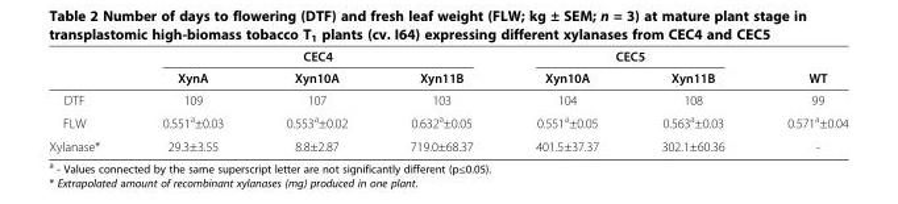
<table><thead><tr><td rowspan="2"></td><td colspan="3">CEC4</td><td colspan="2">CEC5</td><td rowspan="2">WT</td></tr><tr><td>XynA</td><td>Xyn10A</td><td>Xyn11B</td><td>Xyn10A</td><td>Xyn11B</td></tr></thead><tbody><tr><td>DTF</td><td>109</td><td>107</td><td>103</td><td>104</td><td>108</td><td>99</td></tr><tr><td>FLW</td><td>0.551<sup>a</sup>±0.03</td><td>0.553<sup>a</sup>±0.02</td><td>0.632<sup>a</sup>±0.05</td><td>0.551<sup>a</sup>±0.05</td><td>0.563<sup>a</sup>±0.03</td><td>0.571<sup>a</sup>±0.04</td></tr><tr><td>Xylanase*</td><td>29.3±3.55</td><td>8.8±2.87</td><td>719.0±68.37</td><td>401.5±37.37</td><td>302.1±60.36</td><td>-</td></tr></tbody></table>